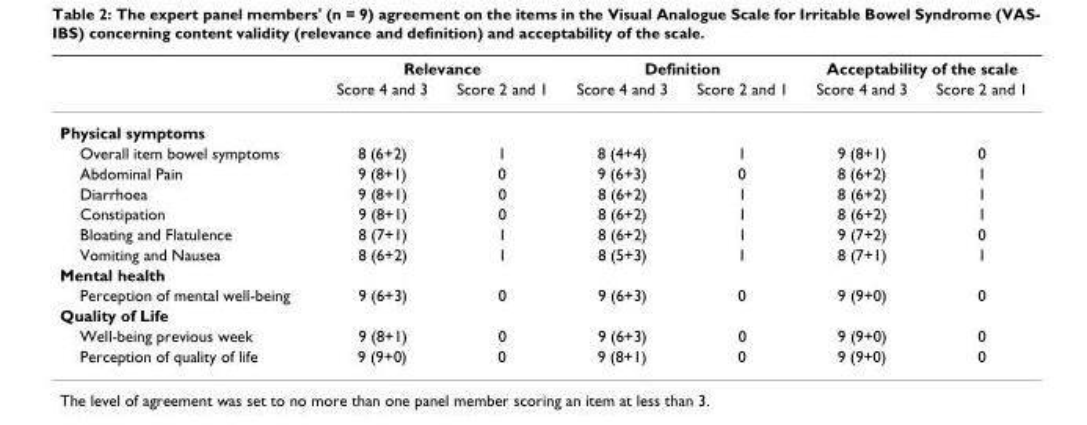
<table><thead><tr><td rowspan="2"></td><td colspan="2">Relevance</td><td colspan="2">Definition</td><td colspan="2">Acceptability of the scale</td></tr><tr><td>Score 4 and 3</td><td>Score 2 and 1</td><td>Score 4 and 3</td><td>Score 2 and 1</td><td>Score 4 and 3</td><td>Score 2 and 1</td></tr></thead><tbody><tr><td colspan="7">Physical symptoms</td></tr><tr><td>Overall item bowel symptoms</td><td>8 (6+2)</td><td>1</td><td>8 (4+4)</td><td>1</td><td>9 (8+1)</td><td>0</td></tr><tr><td>Abdominal Pain</td><td>9 (8+1)</td><td>0</td><td>9 (6+3)</td><td>0</td><td>8 (6+2)</td><td>1</td></tr><tr><td>Diarrhoea</td><td>9 (8+1)</td><td>0</td><td>8 (6+2)</td><td>1</td><td>8 (6+2)</td><td>1</td></tr><tr><td>Constipation</td><td>9 (8+1)</td><td>0</td><td>8 (6+2)</td><td>1</td><td>8 (6+2)</td><td>1</td></tr><tr><td>Bloating and Flatulence</td><td>8 (7+1)</td><td>1</td><td>8 (6+2)</td><td>1</td><td>9 (7+2)</td><td>0</td></tr><tr><td>Vomiting and Nausea</td><td>8 (6+2)</td><td>1</td><td>8 (5+3)</td><td>1</td><td>8 (7+1)</td><td>1</td></tr><tr><td colspan="7">Mental health</td></tr><tr><td>Perception of mental well-being</td><td>9 (6+3)</td><td>0</td><td>9 (6+3)</td><td>0</td><td>9 (9+0)</td><td>0</td></tr><tr><td colspan="7">Quality of Life</td></tr><tr><td>Well-being previous week</td><td>9 (8+1)</td><td>0</td><td>9 (6+3)</td><td>0</td><td>9 (9+0)</td><td>0</td></tr><tr><td>Perception of quality of life</td><td>9 (9+0)</td><td>0</td><td>9 (8+1)</td><td>0</td><td>9 (9+0)</td><td>0</td></tr></tbody></table>